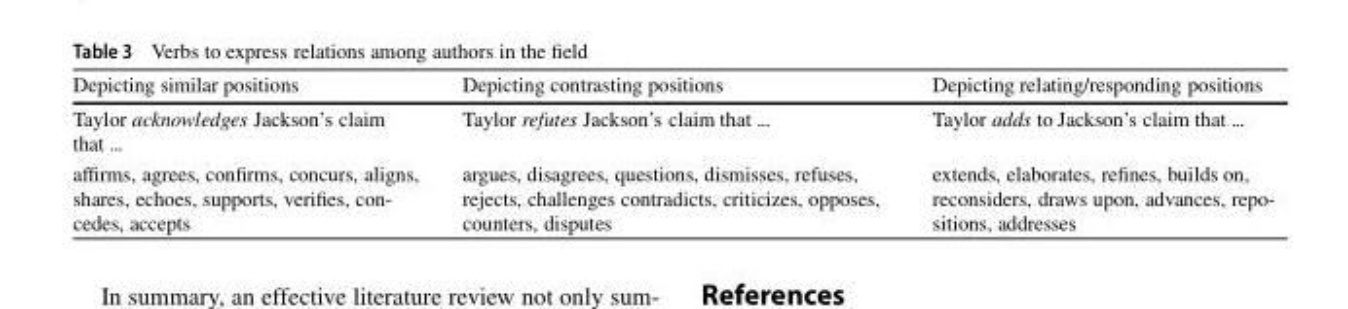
<table><thead><tr><td>Depicting similar positions</td><td>Depicting contrasting positions</td><td>Depicting relating/responding positions</td></tr></thead><tbody><tr><td>Taylor acknowledges Jackson’s claim that ...</td><td>Taylor refutes Jackson’s claim that ...</td><td>Taylor adds to Jackson’s claim that ...</td></tr><tr><td>affirms, agrees, confirms, concurs, aligns, shares, echoes, supports, verifies, con- cedes, accepts</td><td>argues, disagrees, questions, dismisses, refuses, rejects, challenges contradicts, criticizes, opposes, counters, disputes</td><td>extends, elaborates, refines, builds on, reconsiders, draws upon, advances, repo- sitions, addresses</td></tr></tbody></table>